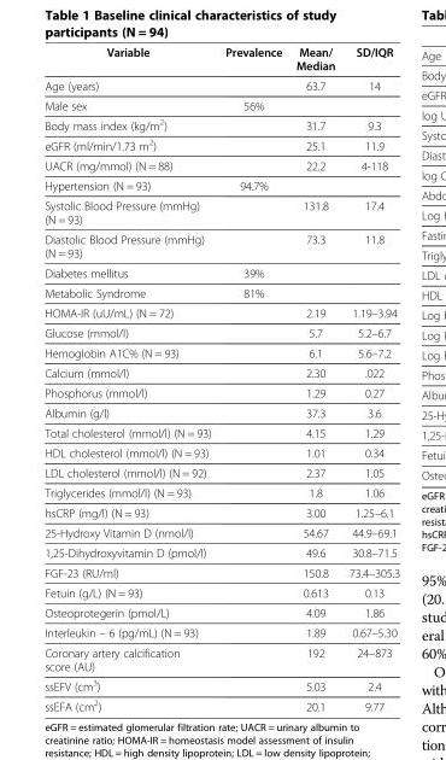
<table><thead><tr><td>Variable</td><td>Prevalence</td><td>Mean/ Median</td><td>SD/IQR</td></tr></thead><tbody><tr><td>Age (years)</td><td></td><td>63.7</td><td>14</td></tr><tr><td>Male sex</td><td>56%</td><td></td><td></td></tr><tr><td>Body mass index (kg/m<sup>2</sup>)</td><td></td><td>31.7</td><td>9.3</td></tr><tr><td>eGFR (ml/min/1.73 m<sup>2</sup>)</td><td></td><td>25.1</td><td>11.9</td></tr><tr><td>UACR (mg/mmol) (N = 88)</td><td></td><td>22.2</td><td>4-118</td></tr><tr><td>Hypertension (N = 93)</td><td>94.7%</td><td></td><td></td></tr><tr><td>Systolic Blood Pressure (mmHg) (N = 93)</td><td></td><td>131.8</td><td>17.4</td></tr><tr><td>Diastolic Blood Pressure (mmHg) (N = 93)</td><td></td><td>73.3</td><td>11.8</td></tr><tr><td>Diabetes mellitus</td><td>39%</td><td></td><td></td></tr><tr><td>Metabolic Syndrome</td><td>81%</td><td></td><td></td></tr><tr><td>HOMA-IR (uU/mL) (N = 72)</td><td></td><td>2.19</td><td>1.19–3.94</td></tr><tr><td>Glucose (mmol/l)</td><td></td><td>5.7</td><td>5.2–6.7</td></tr><tr><td>Hemoglobin A1C% (N = 93)</td><td></td><td>6.1</td><td>5.6–7.2</td></tr><tr><td>Calcium (mmol/l)</td><td></td><td>2.30</td><td>.022</td></tr><tr><td>Phosphorus (mmol/l)</td><td></td><td>1.29</td><td>0.27</td></tr><tr><td>Albumin (g/l)</td><td></td><td>37.3</td><td>3.6</td></tr><tr><td>Total cholesterol (mmol/l) (N = 93)</td><td></td><td>4.15</td><td>1.29</td></tr><tr><td>HDL cholesterol (mmol/l) (N = 93)</td><td></td><td>1.01</td><td>0.34</td></tr><tr><td>LDL cholesterol (mmol/l) (N = 92)</td><td></td><td>2.37</td><td>1.05</td></tr><tr><td>Triglycerides (mmol/l) (N = 93)</td><td></td><td>1.8</td><td>1.06</td></tr><tr><td>hsCRP (mg/l) (N = 93)</td><td></td><td>3.00</td><td>1.25–6.1</td></tr><tr><td>25-Hydroxy Vitamin D (nmol/l)</td><td></td><td>54.67</td><td>44.9–69.1</td></tr><tr><td>1,25-Dihydroxyvitamin D (pmol/l)</td><td></td><td>49.6</td><td>30.8–71.5</td></tr><tr><td>FGF-23 (RU/ml)</td><td></td><td>150.8</td><td>73.4–305.3</td></tr><tr><td>Fetuin (g/L) (N = 93)</td><td></td><td>0.613</td><td>0.13</td></tr><tr><td>Osteoprotegerin (pmol/L)</td><td></td><td>4.09</td><td>1.86</td></tr><tr><td>Interleukin – 6 (pg/mL) (N = 93)</td><td></td><td>1.89</td><td>0.67–5.30</td></tr><tr><td>Coronary artery calcification score (AU)</td><td></td><td>192</td><td>24–873</td></tr><tr><td>ssEFV (cm<sup>3</sup>)</td><td></td><td>5.03</td><td>2.4</td></tr><tr><td>ssEFA (cm<sup>2</sup>)</td><td></td><td>20.1</td><td>9.77</td></tr></tbody></table>